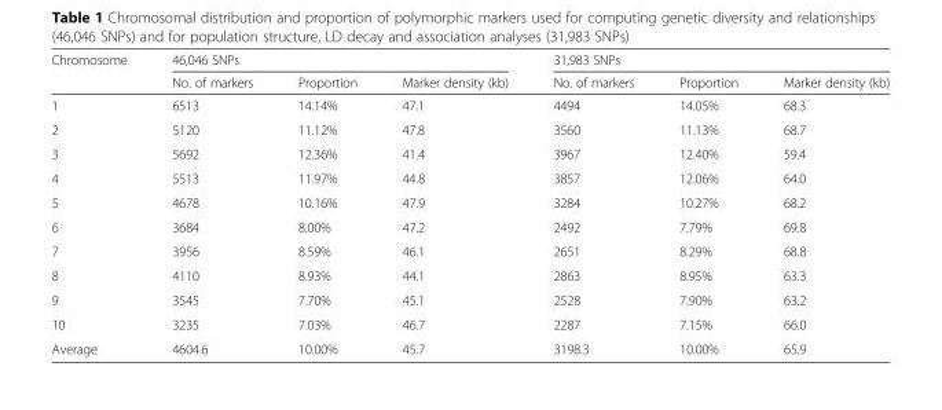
<table><thead><tr><td rowspan="2">Chromosome</td><td colspan="3">46,046 SNPs</td><td colspan="3">31,983 SNPs</td></tr><tr><td>No. of markers</td><td>Proportion</td><td>Marker density (kb)</td><td>No. of markers</td><td>Proportion</td><td>Marker density (kb)</td></tr></thead><tbody><tr><td>1</td><td>6513</td><td>14.14%</td><td>47.1</td><td>4494</td><td>14.05%</td><td>68.3</td></tr><tr><td>2</td><td>5120</td><td>11.12%</td><td>47.8</td><td>3560</td><td>11.13%</td><td>68.7</td></tr><tr><td>3</td><td>5692</td><td>12.36%</td><td>41.4</td><td>3967</td><td>12.40%</td><td>59.4</td></tr><tr><td>4</td><td>5513</td><td>11.97%</td><td>44.8</td><td>3857</td><td>12.06%</td><td>64.0</td></tr><tr><td>5</td><td>4678</td><td>10.16%</td><td>47.9</td><td>3284</td><td>10.27%</td><td>68.2</td></tr><tr><td>6</td><td>3684</td><td>8.00%</td><td>47.2</td><td>2492</td><td>7.79%</td><td>69.8</td></tr><tr><td>7</td><td>3956</td><td>8.59%</td><td>46.1</td><td>2651</td><td>8.29%</td><td>68.8</td></tr><tr><td>8</td><td>4110</td><td>8.93%</td><td>44.1</td><td>2863</td><td>8.95%</td><td>63.3</td></tr><tr><td>9</td><td>3545</td><td>7.70%</td><td>45.1</td><td>2528</td><td>7.90%</td><td>63.2</td></tr><tr><td>10</td><td>3235</td><td>7.03%</td><td>46.7</td><td>2287</td><td>7.15%</td><td>66.0</td></tr><tr><td>Average</td><td>4604.6</td><td>10.00%</td><td>45.7</td><td>3198.3</td><td>10.00%</td><td>65.9</td></tr></tbody></table>